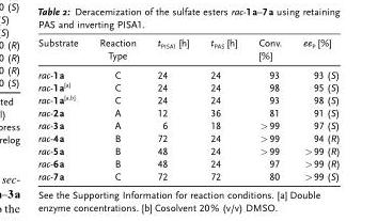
<table><thead><tr><td>Substrate</td><td>Reaction Type</td><td>t<sub>PISA1</sub> [h]</td><td>t<sub>PAS</sub> [h]</td><td>Conv. [%]</td><td>ee<sub>P</sub> [%]</td></tr></thead><tbody><tr><td>rac-1a</td><td>C</td><td>24</td><td>24</td><td>93</td><td>93 (S)</td></tr><tr><td>rac-1a<sup>[a]</sup></td><td>C</td><td>24</td><td>24</td><td>98</td><td>95 (S)</td></tr><tr><td>rac-1a<sup>[a,b]</sup></td><td>C</td><td>24</td><td>24</td><td>93</td><td>98 (S)</td></tr><tr><td>rac-2a</td><td>A</td><td>12</td><td>36</td><td>81</td><td>91 (S)</td></tr><tr><td>rac-3a</td><td>A</td><td>6</td><td>18</td><td>&gt;99</td><td>97 (S)</td></tr><tr><td>rac-4a</td><td>B</td><td>72</td><td>24</td><td>&gt;99</td><td>94 (R)</td></tr><tr><td>rac-5a</td><td>B</td><td>48</td><td>24</td><td>&gt;99</td><td>&gt;99 (R)</td></tr><tr><td>rac-6a</td><td>B</td><td>48</td><td>24</td><td>97</td><td>&gt;99 (R)</td></tr><tr><td>rac-7a</td><td>C</td><td>72</td><td>72</td><td>80</td><td>&gt;99 (S)</td></tr></tbody></table>